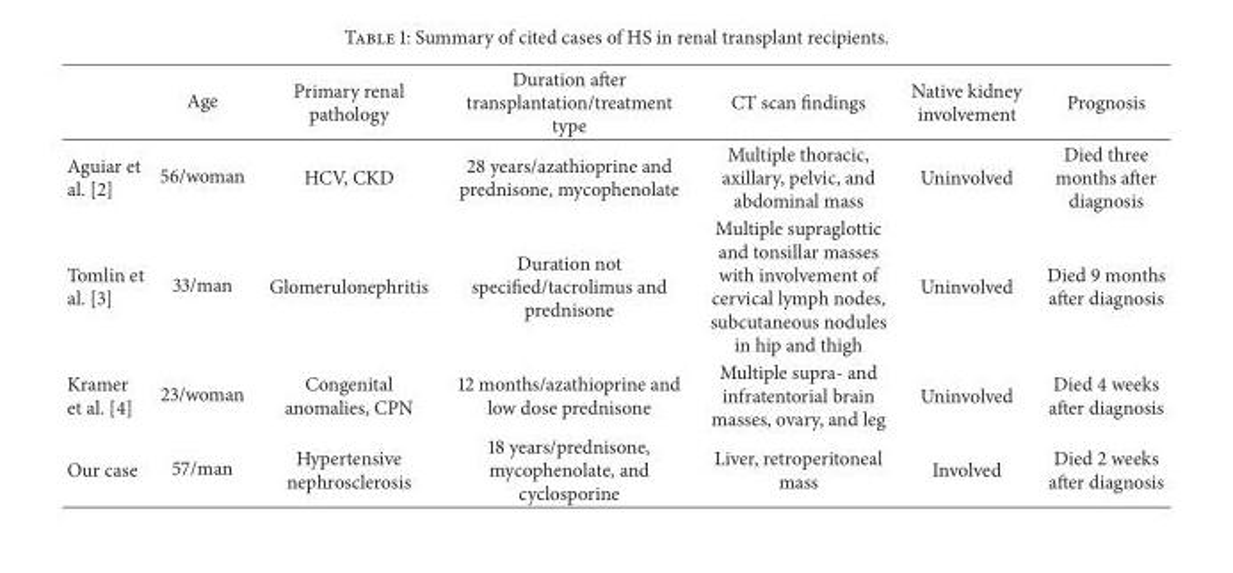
<table><thead><tr><td></td><td>Age</td><td>Primary renal pathology</td><td>Duration after transplantation/treatment type</td><td>CT scan findings</td><td>Native kidney involvement</td><td>Prognosis</td></tr></thead><tbody><tr><td>Aguiar et al. [2]</td><td>56/woman</td><td>HCV, CKD</td><td>28 years/azathioprine and prednisone, mycophenolate</td><td>Multiple thoracic, axillary, pelvic, and abdominal mass</td><td>Uninvolved</td><td>Died three months after diagnosis</td></tr><tr><td>Tomlin et al. [3]</td><td>33/man</td><td>Glomerulonephritis</td><td>Duration not specified/tacrolimus and prednisone</td><td>Multiple supraglottic and tonsillar masses with involvement of cervical lymph nodes, subcutaneous nodules in hip and thigh</td><td>Uninvolved</td><td>Died 9 months after diagnosis</td></tr><tr><td>Kramer et al. [4]</td><td>23/woman</td><td>Congenital anomalies, CPN</td><td>12 months/azathioprine and low dose prednisone</td><td>Multiple supra- and infratentorial brain masses, ovary, and leg</td><td>Uninvolved</td><td>Died 4 weeks after diagnosis</td></tr><tr><td>Our case</td><td>57/man</td><td>Hypertensive nephrosclerosis</td><td>18 years/prednisone, mycophenolate, and cyclosporine</td><td>Liver, retroperitoneal mass</td><td>Involved</td><td>Died 2 weeks after diagnosis</td></tr></tbody></table>